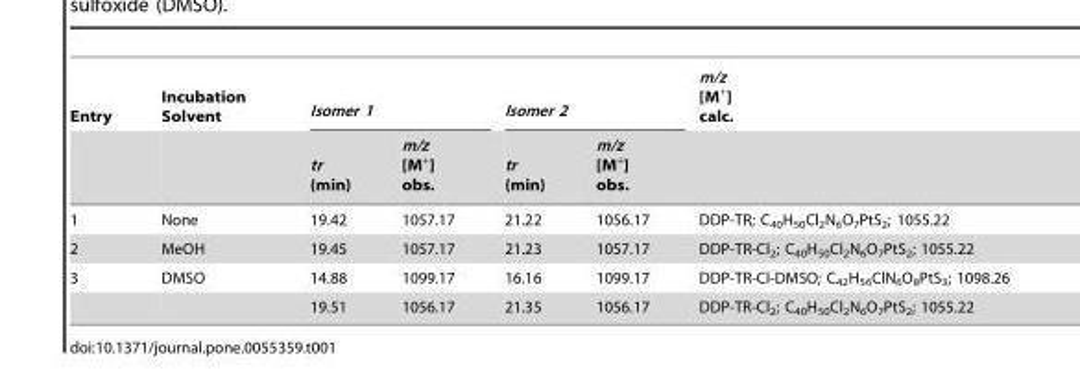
<table><thead><tr><td rowspan="2">Entry</td><td rowspan="2">Incubation Solvent</td><td colspan="2">Isomer 1</td><td colspan="2">Isomer 2</td><td rowspan="2">m/z [M<sup>+</sup>] calc.</td></tr><tr><td>tr (min)</td><td>m/z [M<sup>+</sup>] obs.</td><td>tr (min)</td><td>m/z [M<sup>+</sup>] obs.</td></tr></thead><tbody><tr><td>1</td><td>None</td><td>19.42</td><td>1057.17</td><td>21.22</td><td>1056.17</td><td>DDP-TR; C<sub>40</sub>H<sub>50</sub>Cl<sub>2</sub>N<sub>6</sub>O<sub>7</sub>PtS<sub>2</sub>; 1055.22</td></tr><tr><td>2</td><td>MeOH</td><td>19.45</td><td>1057.17</td><td>21.23</td><td>1057.17</td><td>DDP-TR-Cl<sub>2</sub>; C<sub>40</sub>H<sub>50</sub>Cl<sub>2</sub>N<sub>6</sub>O<sub>7</sub>PtS<sub>2</sub>; 1055.22</td></tr><tr><td rowspan="2">3</td><td>DMSO</td><td>14.88</td><td>1099.17</td><td>16.16</td><td>1099.17</td><td>DDP-TR-Cl-DMSO; C<sub>42</sub>H<sub>56</sub>ClN<sub>6</sub>O<sub>8</sub>PtS<sub>3</sub>; 1098.26</td></tr><tr><td></td><td>19.51</td><td>1056.17</td><td>21.35</td><td>1056.17</td><td>DDP-TR-Cl<sub>2</sub>; C<sub>40</sub>H<sub>50</sub>Cl<sub>2</sub>N<sub>6</sub>O<sub>7</sub>PtS<sub>2</sub>; 1055.22</td></tr></tbody></table>